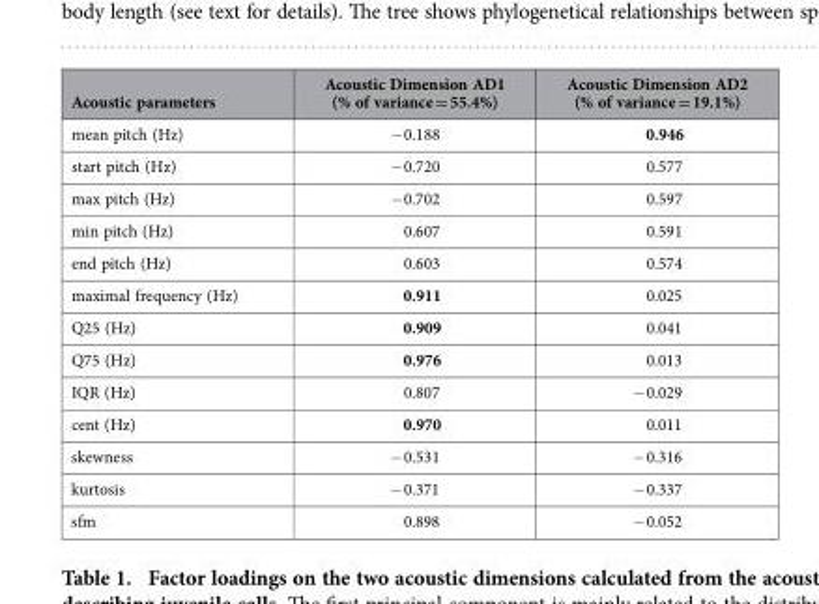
<table><thead><tr><td>Acoustic parameters</td><td>Acoustic Dimension AD1 (% of variance = 55.4%)</td><td>Acoustic Dimension AD2 (% of variance = 19.1%)</td></tr></thead><tbody><tr><td>mean pitch (Hz)</td><td>− 0.188</td><td>0.946</td></tr><tr><td>start pitch (Hz)</td><td>− 0.720</td><td>0.577</td></tr><tr><td>max pitch (Hz)</td><td>− 0.702</td><td>0.597</td></tr><tr><td>min pitch (Hz)</td><td>0.607</td><td>0.591</td></tr><tr><td>end pitch (Hz)</td><td>0.603</td><td>0.574</td></tr><tr><td>maximal frequency (Hz)</td><td>0.911</td><td>0.025</td></tr><tr><td>Q25 (Hz)</td><td>0.909</td><td>0.041</td></tr><tr><td>Q75 (Hz)</td><td>0.976</td><td>0.013</td></tr><tr><td>IQR (Hz)</td><td>0.807</td><td>− 0.029</td></tr><tr><td>cent (Hz)</td><td>0.970</td><td>0.011</td></tr><tr><td>skewness</td><td>− 0.531</td><td>− 0.316</td></tr><tr><td>kurtosis</td><td>− 0.371</td><td>− 0.337</td></tr><tr><td>sfm</td><td>0.898</td><td>− 0.052</td></tr></tbody></table>